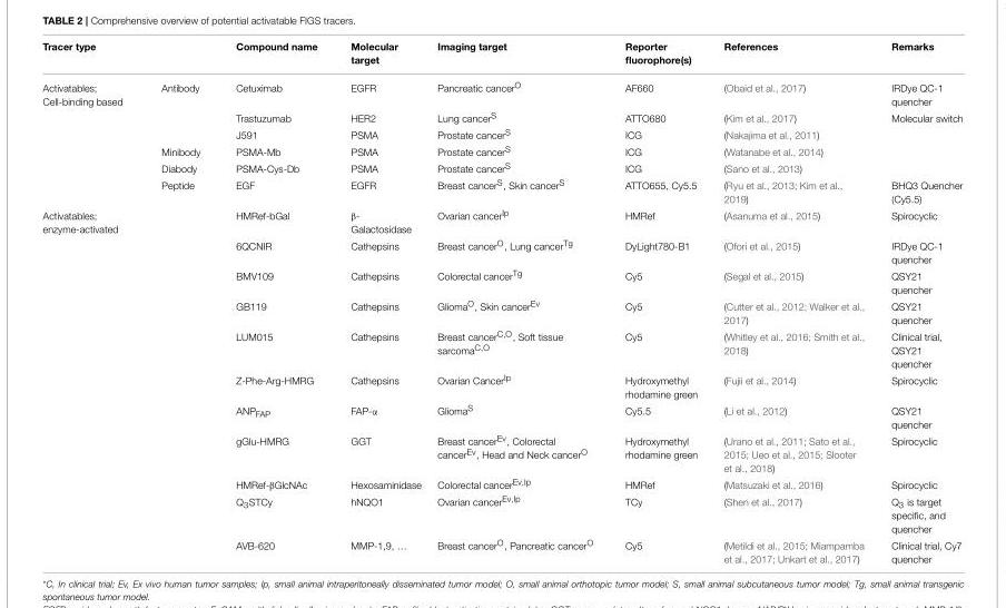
<table><thead><tr><td>Tracer type</td><td></td><td>Compound name</td><td>Molecular target</td><td>Imaging target</td><td>Reporter fluorophore(s)</td><td>References</td><td>Remarks</td></tr></thead><tbody><tr><td rowspan="6">Activatables; Cell-binding based</td><td>Antibody</td><td>Cetuximab</td><td>EGFR</td><td>Pancreatic cancer<sup>O</sup></td><td>AF660</td><td>(Obaid et al., 2017)</td><td>IRDye QC-1 quencher</td></tr><tr><td></td><td>Trastuzumab</td><td>HER2</td><td>Lung cancer<sup>S</sup></td><td>ATTO680</td><td>(Kim et al., 2017)</td><td>Molecular switch</td></tr><tr><td></td><td>J591</td><td>PSMA</td><td>Prostate cancer<sup>S</sup></td><td>ICG</td><td>(Nakajima et al., 2011)</td><td></td></tr><tr><td>Minibody</td><td>PSMA-Mb</td><td>PSMA</td><td>Prostate cancer<sup>S</sup></td><td>ICG</td><td>(Watanabe et al., 2014)</td><td></td></tr><tr><td>Diabody</td><td>PSMA-Cys-Db</td><td>PSMA</td><td>Prostate cancer<sup>S</sup></td><td>ICG</td><td>(Sano et al., 2013)</td><td></td></tr><tr><td>Peptide</td><td>EGF</td><td>EGFR</td><td>Breast cancer<sup>S</sup>, Skin cancer<sup>S</sup></td><td>ATTO655, Cy5.5</td><td>(Ryu et al., 2013; Kim et al., 2019)</td><td>BHQ3 Quencher (Cy5.5)</td></tr><tr><td rowspan="11">Activatables; enzyme-activated</td><td></td><td>HMRef-bGal</td><td>β- Galactosidase</td><td>Ovarian cancer<sup>Ip</sup></td><td>HMRef</td><td>(Asanuma et al., 2015)</td><td>Spirocyclic</td></tr><tr><td></td><td>6QCNIR</td><td>Cathepsins</td><td>Breast cancer<sup>O</sup>, Lung cancer<sup>Tg</sup></td><td>DyLight780-B1</td><td>(Ofori et al., 2015)</td><td>IRDye QC-1 quencher</td></tr><tr><td></td><td>BMV109</td><td>Cathepsins</td><td>Colorectal cancer<sup>Tg</sup></td><td>Cy5</td><td>(Segal et al., 2015)</td><td>QSY21 quencher</td></tr><tr><td></td><td>GB119</td><td>Cathepsins</td><td>Glioma<sup>O</sup>, Skin cancer<sup>Ev</sup></td><td>Cy5</td><td>(Cutter et al., 2012; Walker et al., 2017)</td><td>QSY21 quencher</td></tr><tr><td></td><td>LUM015</td><td>Cathepsins</td><td>Breast cancer<sup>C,O</sup>, Soft tissue sarcoma<sup>C,O</sup></td><td>Cy5</td><td>(Whitley et al., 2016; Smith et al., 2018)</td><td>Clinical trial, QSY21 quencher</td></tr><tr><td></td><td>Z-Phe-Arg-HMRG</td><td>Cathepsins</td><td>Ovarian Cancer<sup>Ip</sup></td><td>Hydroxymethyl rhodamine green</td><td>(Fujii et al., 2014)</td><td>Spirocyclic</td></tr><tr><td></td><td>ANP<sub>FAP</sub></td><td>FAP-α</td><td>Glioma<sup>S</sup></td><td>Cy5.5</td><td>(Li et al., 2012)</td><td>QSY21 quencher</td></tr><tr><td></td><td>gGlu-HMRG</td><td>GGT</td><td>Breast cancer<sup>Ev</sup>, Colorectal cancer<sup>Ev</sup>, Head and Neck cancer<sup>O</sup></td><td>Hydroxymethyl rhodamine green</td><td>(Urano et al., 2011; Sato et al., 2015; Ueo et al., 2015; Slooter et al., 2018)</td><td>Spirocyclic</td></tr><tr><td></td><td>HMRef-βGlcNAc</td><td>Hexosaminidase</td><td>Colorectal cancer<sup>Ev,Ip</sup></td><td>HMRef</td><td>(Matsuzaki et al., 2016)</td><td>Spirocyclic</td></tr><tr><td></td><td>Q<sub>3</sub>STCy</td><td>hNQO1</td><td>Ovarian cancer<sup>Ev,Ip</sup></td><td>TCy</td><td>(Shen et al., 2017)</td><td>Q<sub>3</sub> is target specific, and quencher</td></tr><tr><td></td><td>AVB-620</td><td>MMP-1,9, …</td><td>Breast cancer<sup>O</sup>, Pancreatic cancer<sup>O</sup></td><td>Cy5</td><td>(Metildi et al., 2015; Miampamba et al., 2017; Unkart et al., 2017)</td><td>Clinical trial, Cy7 quencher</td></tr></tbody></table>